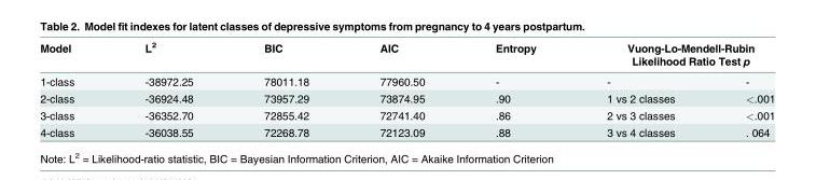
<table><thead><tr><td rowspan="2">Model 1-class</td><td rowspan="2">L<sup>2</sup> -38972.25</td><td rowspan="2">BIC 78011.18</td><td rowspan="2">AIC 77960.50</td><td rowspan="2">Entropy -</td><td colspan="2">Vuong-Lo-Mendell-Rubin Likelihood Ratio Test p</td></tr><tr><td>-</td><td>-</td></tr></thead><tbody><tr><td>2-class</td><td>-36924.48</td><td>73957.29</td><td>73874.95</td><td>.90</td><td>1 vs 2 classes</td><td>&lt;.001</td></tr><tr><td>3-class</td><td>-36352.70</td><td>72855.42</td><td>72741.40</td><td>.86</td><td>2 vs 3 classes</td><td>&lt;.001</td></tr><tr><td>4-class</td><td>-36038.55</td><td>72268.78</td><td>72123.09</td><td>.88</td><td>3 vs 4 classes</td><td>. 064</td></tr></tbody></table>